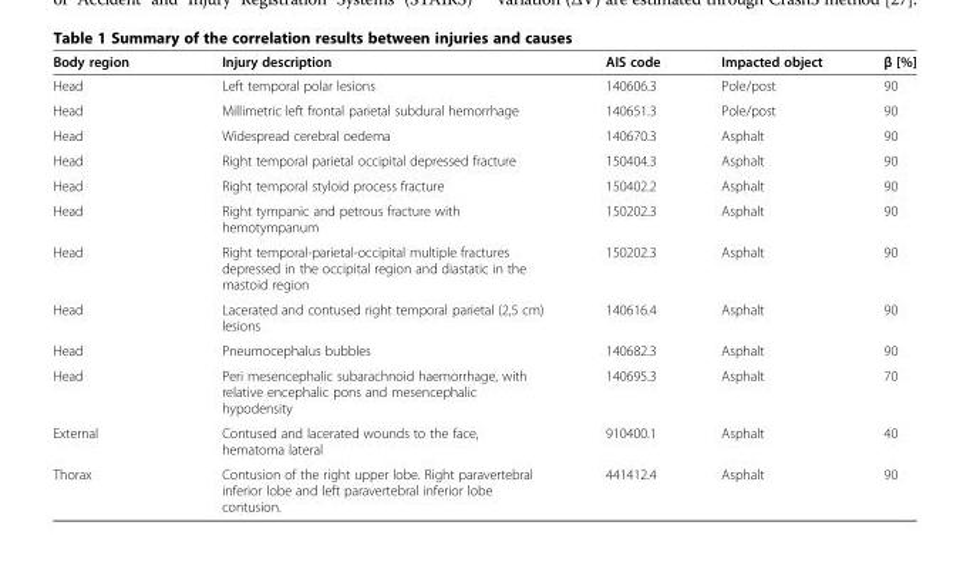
<table><thead><tr><td>Body region</td><td>Injury description</td><td>AIS code</td><td>Impacted object</td><td>β [%]</td></tr></thead><tbody><tr><td>Head</td><td>Left temporal polar lesions</td><td>140606.3</td><td>Pole/post</td><td>90</td></tr><tr><td>Head</td><td>Millimetric left frontal parietal subdural hemorrhage</td><td>140651.3</td><td>Pole/post</td><td>90</td></tr><tr><td>Head</td><td>Widespread cerebral oedema</td><td>140670.3</td><td>Asphalt</td><td>90</td></tr><tr><td>Head</td><td>Right temporal parietal occipital depressed fracture</td><td>150404.3</td><td>Asphalt</td><td>90</td></tr><tr><td>Head</td><td>Right temporal styloid process fracture</td><td>150402.2</td><td>Asphalt</td><td>90</td></tr><tr><td>Head</td><td>Right tympanic and petrous fracture with hemotympanum</td><td>150202.3</td><td>Asphalt</td><td>90</td></tr><tr><td>Head</td><td>Right temporal-parietal-occipital multiple fractures depressed in the occipital region and diastatic in the mastoid region</td><td>150202.3</td><td>Asphalt</td><td>90</td></tr><tr><td>Head</td><td>Lacerated and contused right temporal parietal (2,5 cm) lesions</td><td>140616.4</td><td>Asphalt</td><td>90</td></tr><tr><td>Head</td><td>Pneumocephalus bubbles</td><td>140682.3</td><td>Asphalt</td><td>90</td></tr><tr><td>Head</td><td>Peri mesencephalic subarachnoid haemorrhage, with relative encephalic pons and mesencephalic hypodensity</td><td>140695.3</td><td>Asphalt</td><td>70</td></tr><tr><td>External</td><td>Contused and lacerated wounds to the face, hematoma lateral</td><td>910400.1</td><td>Asphalt</td><td>40</td></tr><tr><td>Thorax</td><td>Contusion of the right upper lobe. Right paravertebral inferior lobe and left paravertebral inferior lobe contusion.</td><td>441412.4</td><td>Asphalt</td><td>90</td></tr></tbody></table>